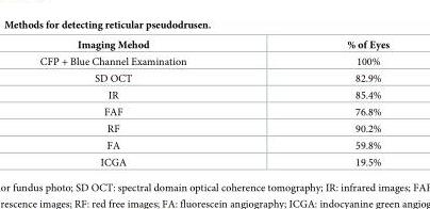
<table><thead><tr><td>Imaging Mehod</td><td>% of Eyes</td></tr></thead><tbody><tr><td>CFP + Blue Channel Examination</td><td>100%</td></tr><tr><td>SD OCT</td><td>82.9%</td></tr><tr><td>IR</td><td>85.4%</td></tr><tr><td>FAF</td><td>76.8%</td></tr><tr><td>RF</td><td>90.2%</td></tr><tr><td>FA</td><td>59.8%</td></tr><tr><td>ICGA</td><td>19.5%</td></tr></tbody></table>